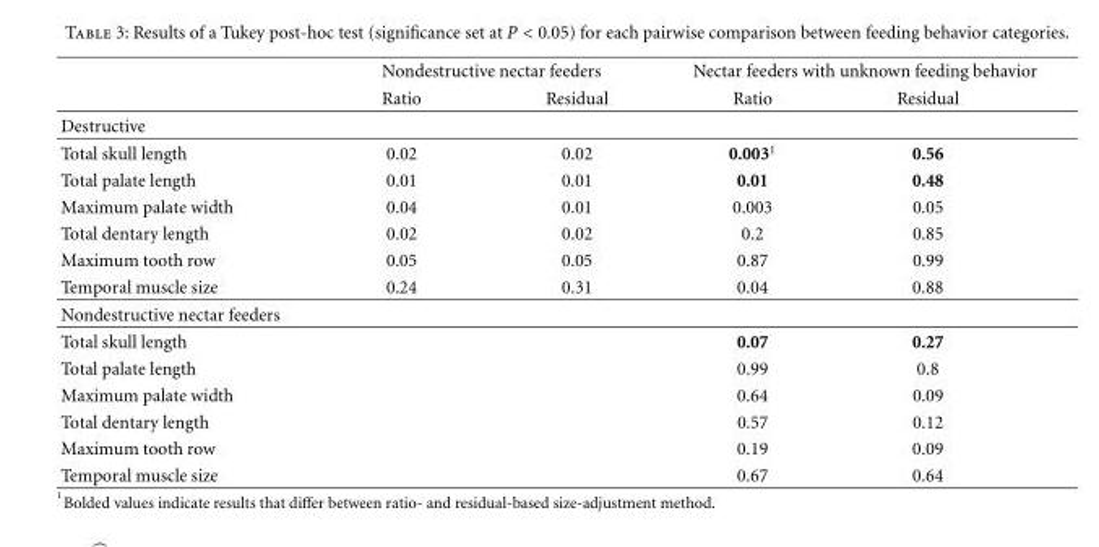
<table><thead><tr><td rowspan="2"></td><td colspan="2">Nondestructive nectar feeders</td><td colspan="2">Nectar feeders with unknown feeding behavior</td></tr><tr><td>Ratio</td><td>Residual</td><td>Ratio</td><td>Residual</td></tr></thead><tbody><tr><td colspan="5">Destructive</td></tr><tr><td>Total skull length</td><td>0.02</td><td>0.02</td><td>0.003<sup>1</sup></td><td>0.56</td></tr><tr><td>Total palate length</td><td>0.01</td><td>0.01</td><td>0.01</td><td>0.48</td></tr><tr><td>Maximum palate width</td><td>0.04</td><td>0.01</td><td>0.003</td><td>0.05</td></tr><tr><td>Total dentary length</td><td>0.02</td><td>0.02</td><td>0.2</td><td>0.85</td></tr><tr><td>Maximum tooth row</td><td>0.05</td><td>0.05</td><td>0.87</td><td>0.99</td></tr><tr><td>Temporal muscle size</td><td>0.24</td><td>0.31</td><td>0.04</td><td>0.88</td></tr><tr><td colspan="5">Nondestructive nectar feeders</td></tr><tr><td>Total skull length</td><td></td><td></td><td>0.07</td><td>0.27</td></tr><tr><td>Total palate length</td><td></td><td></td><td>0.99</td><td>0.8</td></tr><tr><td>Maximum palate width</td><td></td><td></td><td>0.64</td><td>0.09</td></tr><tr><td>Total dentary length</td><td></td><td></td><td>0.57</td><td>0.12</td></tr><tr><td>Maximum tooth row</td><td></td><td></td><td>0.19</td><td>0.09</td></tr><tr><td>Temporal muscle size</td><td></td><td></td><td>0.67</td><td>0.64</td></tr></tbody></table>